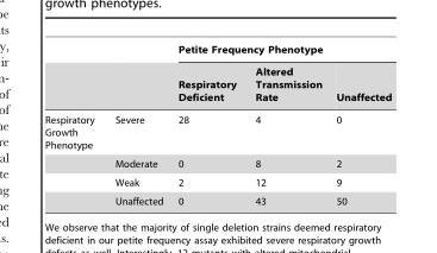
<table><thead><tr><td rowspan="2"></td><td rowspan="2"></td><td colspan="3">Petite Frequency Phenotype</td></tr><tr><td>Respiratory Deficient</td><td>Altered Transmission Rate</td><td>Unaffected</td></tr></thead><tbody><tr><td rowspan="4">Respiratory Growth Phenotype</td><td>Severe</td><td>28</td><td>4</td><td>0</td></tr><tr><td>Moderate</td><td>0</td><td>8</td><td>2</td></tr><tr><td>Weak</td><td>2</td><td>12</td><td>9</td></tr><tr><td>Unaffected</td><td>0</td><td>43</td><td>50</td></tr></tbody></table>